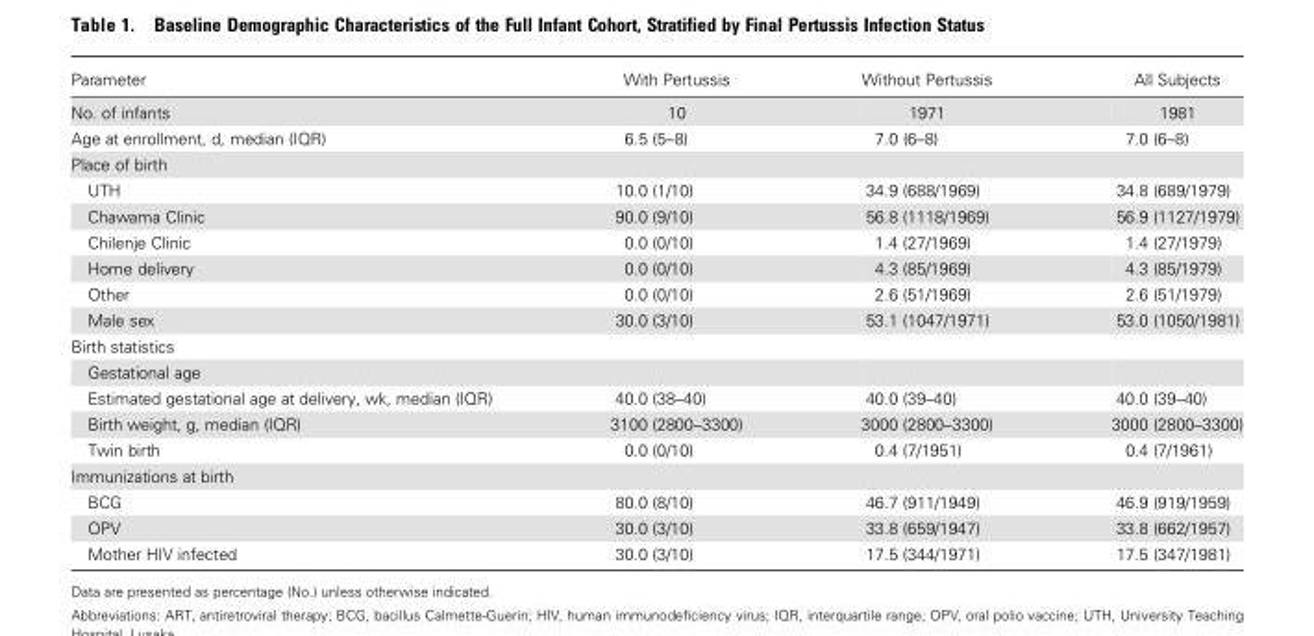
<table><thead><tr><td>Parameter</td><td>With Pertussis</td><td>Without Pertussis</td><td>All Subjects</td></tr></thead><tbody><tr><td>No. of infants</td><td>10</td><td>1971</td><td>1981</td></tr><tr><td>Age at enrollment, d, median (IQR)</td><td>6.5 (5–8)</td><td>7.0 (6–8)</td><td>7.0 (6–8)</td></tr><tr><td colspan="4">Place of birth</td></tr><tr><td>UTH</td><td>10.0 (1/10)</td><td>34.9 (688/1969)</td><td>34.8 (689/1979)</td></tr><tr><td>Chawama Clinic</td><td>90.0 (9/10)</td><td>56.8 (1118/1969)</td><td>56.9 (1127/1979)</td></tr><tr><td>Chilenje Clinic</td><td>0.0 (0/10)</td><td>1.4 (27/1969)</td><td>1.4 (27/1979)</td></tr><tr><td>Home delivery</td><td>0.0 (0/10)</td><td>4.3 (85/1969)</td><td>4.3 (85/1979)</td></tr><tr><td>Other</td><td>0.0 (0/10)</td><td>2.6 (51/1969)</td><td>2.6 (51/1979)</td></tr><tr><td>Male sex</td><td>30.0 (3/10)</td><td>53.1 (1047/1971)</td><td>53.0 (1050/1981)</td></tr><tr><td colspan="4">Birth statistics</td></tr><tr><td colspan="4">Gestational age</td></tr><tr><td>Estimated gestational age at delivery, wk, median (IQR)</td><td>40.0 (38–40)</td><td>40.0 (39–40)</td><td>40.0 (39–40)</td></tr><tr><td>Birth weight, g, median (IQR)</td><td>3100 (2800–3300)</td><td>3000 (2800–3300)</td><td>3000 (2800–3300)</td></tr><tr><td>Twin birth</td><td>0.0 (0/10)</td><td>0.4 (7/1951)</td><td>0.4 (7/1961)</td></tr><tr><td colspan="4">Immunizations at birth</td></tr><tr><td>BCG</td><td>80.0 (8/10)</td><td>46.7 (911/1949)</td><td>46.9 (919/1959)</td></tr><tr><td>OPV</td><td>30.0 (3/10)</td><td>33.8 (659/1947)</td><td>33.8 (662/1957)</td></tr><tr><td>Mother HIV infected</td><td>30.0 (3/10)</td><td>17.5 (344/1971)</td><td>17.5 (347/1981)</td></tr></tbody></table>